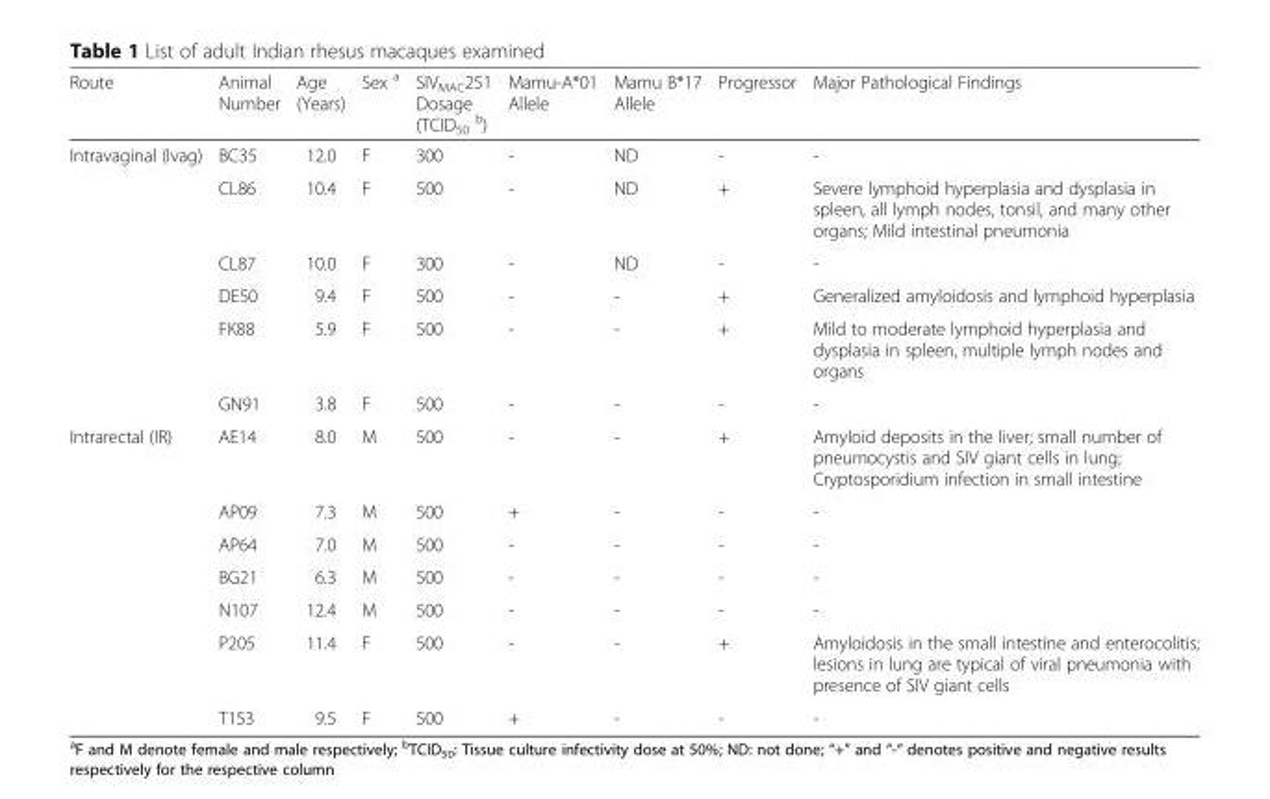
<table><thead><tr><td>Route</td><td>Animal Number</td><td>Age (Years)</td><td>Sex <sup>a</sup></td><td>SIV<sub>MAC</sub>251 Dosage (TCID<sub>50</sub> <sup>b</sup>)</td><td>Mamu-A*01 Allele</td><td>Mamu B*17 Allele</td><td>Progressor</td><td>Major Pathological Findings</td></tr></thead><tbody><tr><td rowspan="6">Intravaginal (Ivag)</td><td>BC35</td><td>12.0</td><td>F</td><td>300</td><td>-</td><td>ND</td><td>-</td><td>-</td></tr><tr><td>CL86</td><td>10.4</td><td>F</td><td>500</td><td>-</td><td>ND</td><td>+</td><td>Severe lymphoid hyperplasia and dysplasia in spleen, all lymph nodes, tonsil, and many other organs; Mild intestinal pneumonia</td></tr><tr><td>CL87</td><td>10.0</td><td>F</td><td>300</td><td>-</td><td>ND</td><td>-</td><td>-</td></tr><tr><td>DE50</td><td>9.4</td><td>F</td><td>500</td><td>-</td><td>-</td><td>+</td><td>Generalized amyloidosis and lymphoid hyperplasia</td></tr><tr><td>FK88</td><td>5.9</td><td>F</td><td>500</td><td>-</td><td>-</td><td>+</td><td>Mild to moderate lymphoid hyperplasia and dysplasia in spleen, multiple lymph nodes and organs</td></tr><tr><td>GN91</td><td>3.8</td><td>F</td><td>500</td><td>-</td><td>-</td><td>-</td><td>-</td></tr><tr><td rowspan="7">Intrarectal (IR)</td><td>AE14</td><td>8.0</td><td>M</td><td>500</td><td>-</td><td>-</td><td>+</td><td>Amyloid deposits in the liver; small number of pneumocystis and SIV giant cells in lung; Cryptosporidium infection in small intestine</td></tr><tr><td>AP09</td><td>7.3</td><td>M</td><td>500</td><td>+</td><td>-</td><td>-</td><td>-</td></tr><tr><td>AP64</td><td>7.0</td><td>M</td><td>500</td><td>-</td><td>-</td><td>-</td><td>-</td></tr><tr><td>BG21</td><td>6.3</td><td>M</td><td>500</td><td>-</td><td>-</td><td>-</td><td>-</td></tr><tr><td>N107</td><td>12.4</td><td>M</td><td>500</td><td>-</td><td>-</td><td>-</td><td>-</td></tr><tr><td>P205</td><td>11.4</td><td>F</td><td>500</td><td>-</td><td>-</td><td>+</td><td>Amyloidosis in the small intestine and enterocolitis; lesions in lung are typical of viral pneumonia with presence of SIV giant cells</td></tr><tr><td>T153</td><td>9.5</td><td>F</td><td>500</td><td>+</td><td>-</td><td>-</td><td>-</td></tr></tbody></table>